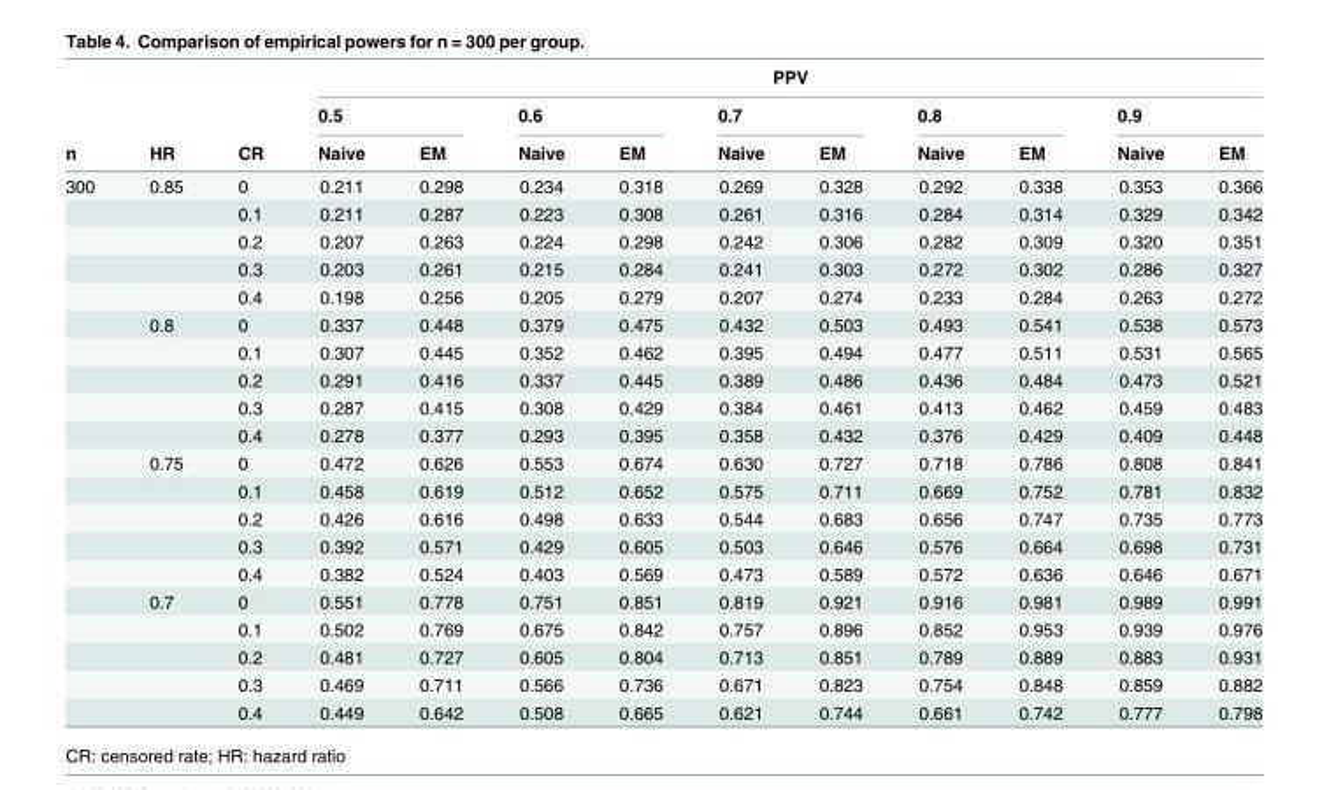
<table><thead><tr><td rowspan="3">n</td><td rowspan="3">HR</td><td rowspan="3">CR</td><td colspan="10">PPV</td></tr><tr><td colspan="2">0.5</td><td colspan="2">0.6</td><td colspan="2">0.7</td><td colspan="2">0.8</td><td colspan="2">0.9</td></tr><tr><td>Naive</td><td>EM</td><td>Naive</td><td>EM</td><td>Naive</td><td>EM</td><td>Naive</td><td>EM</td><td>Naive</td><td>EM</td></tr></thead><tbody><tr><td rowspan="20">300</td><td>0.85</td><td>0</td><td>0.211</td><td>0.298</td><td>0.234</td><td>0.318</td><td>0.269</td><td>0.328</td><td>0.292</td><td>0.338</td><td>0.353</td><td>0.366</td></tr><tr><td></td><td>0.1</td><td>0.211</td><td>0.287</td><td>0.223</td><td>0.308</td><td>0.261</td><td>0.316</td><td>0.284</td><td>0.314</td><td>0.329</td><td>0.342</td></tr><tr><td></td><td>0.2</td><td>0.207</td><td>0.263</td><td>0.224</td><td>0.298</td><td>0.242</td><td>0.306</td><td>0.282</td><td>0.309</td><td>0.320</td><td>0.351</td></tr><tr><td></td><td>0.3</td><td>0.203</td><td>0.261</td><td>0.215</td><td>0.284</td><td>0.241</td><td>0.303</td><td>0.272</td><td>0.302</td><td>0.286</td><td>0.327</td></tr><tr><td></td><td>0.4</td><td>0.198</td><td>0.256</td><td>0.205</td><td>0.279</td><td>0.207</td><td>0.274</td><td>0.233</td><td>0.284</td><td>0.263</td><td>0.272</td></tr><tr><td>0.8</td><td>0</td><td>0.337</td><td>0.448</td><td>0.379</td><td>0.475</td><td>0.432</td><td>0.503</td><td>0.493</td><td>0.541</td><td>0.538</td><td>0.573</td></tr><tr><td></td><td>0.1</td><td>0.307</td><td>0.445</td><td>0.352</td><td>0.462</td><td>0.395</td><td>0.494</td><td>0.477</td><td>0.511</td><td>0.531</td><td>0.565</td></tr><tr><td></td><td>0.2</td><td>0.291</td><td>0.416</td><td>0.337</td><td>0.445</td><td>0.389</td><td>0.486</td><td>0.436</td><td>0.484</td><td>0.473</td><td>0.521</td></tr><tr><td></td><td>0.3</td><td>0.287</td><td>0.415</td><td>0.308</td><td>0.429</td><td>0.384</td><td>0.461</td><td>0.413</td><td>0.462</td><td>0.459</td><td>0.483</td></tr><tr><td></td><td>0.4</td><td>0.278</td><td>0.377</td><td>0.293</td><td>0.395</td><td>0.358</td><td>0.432</td><td>0.376</td><td>0.429</td><td>0.409</td><td>0.448</td></tr><tr><td>0.75</td><td>0</td><td>0.472</td><td>0.626</td><td>0.553</td><td>0.674</td><td>0.630</td><td>0.727</td><td>0.718</td><td>0.786</td><td>0.808</td><td>0.841</td></tr><tr><td></td><td>0.1</td><td>0.458</td><td>0.619</td><td>0.512</td><td>0.652</td><td>0.575</td><td>0.711</td><td>0.669</td><td>0.752</td><td>0.781</td><td>0.832</td></tr><tr><td></td><td>0.2</td><td>0.426</td><td>0.616</td><td>0.498</td><td>0.633</td><td>0.544</td><td>0.683</td><td>0.656</td><td>0.747</td><td>0.735</td><td>0.773</td></tr><tr><td></td><td>0.3</td><td>0.392</td><td>0.571</td><td>0.429</td><td>0.605</td><td>0.503</td><td>0.646</td><td>0.576</td><td>0.664</td><td>0.698</td><td>0.731</td></tr><tr><td></td><td>0.4</td><td>0.382</td><td>0.524</td><td>0.403</td><td>0.569</td><td>0.473</td><td>0.589</td><td>0.572</td><td>0.636</td><td>0.646</td><td>0.671</td></tr><tr><td>0.7</td><td>0</td><td>0.551</td><td>0.778</td><td>0.751</td><td>0.851</td><td>0.819</td><td>0.921</td><td>0.916</td><td>0.981</td><td>0.989</td><td>0.991</td></tr><tr><td></td><td>0.1</td><td>0.502</td><td>0.769</td><td>0.675</td><td>0.842</td><td>0.757</td><td>0.896</td><td>0.852</td><td>0.953</td><td>0.939</td><td>0.976</td></tr><tr><td></td><td>0.2</td><td>0.481</td><td>0.727</td><td>0.605</td><td>0.804</td><td>0.713</td><td>0.851</td><td>0.789</td><td>0.889</td><td>0.883</td><td>0.931</td></tr><tr><td></td><td>0.3</td><td>0.469</td><td>0.711</td><td>0.566</td><td>0.736</td><td>0.671</td><td>0.823</td><td>0.754</td><td>0.848</td><td>0.859</td><td>0.882</td></tr><tr><td></td><td>0.4</td><td>0.449</td><td>0.642</td><td>0.508</td><td>0.665</td><td>0.621</td><td>0.744</td><td>0.661</td><td>0.742</td><td>0.777</td><td>0.798</td></tr></tbody></table>